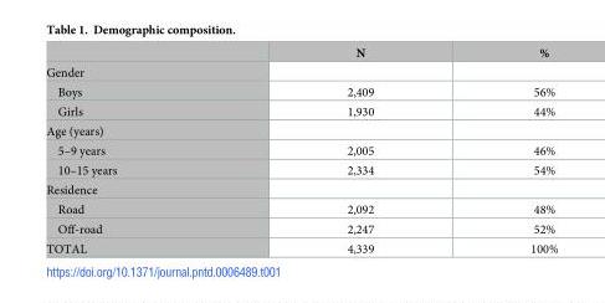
<table><thead><tr><td></td><td>N</td><td>%</td></tr></thead><tbody><tr><td colspan="3">Gender</td></tr><tr><td>Boys</td><td>2,409</td><td>56%</td></tr><tr><td>Girls</td><td>1,930</td><td>44%</td></tr><tr><td colspan="3">Age (years)</td></tr><tr><td>5–9 years</td><td>2,005</td><td>46%</td></tr><tr><td>10–15 years</td><td>2,334</td><td>54%</td></tr><tr><td colspan="3">Residence</td></tr><tr><td>Road</td><td>2,092</td><td>48%</td></tr><tr><td>Off-road</td><td>2,247</td><td>52%</td></tr><tr><td>TOTAL</td><td>4,339</td><td>100%</td></tr></tbody></table>